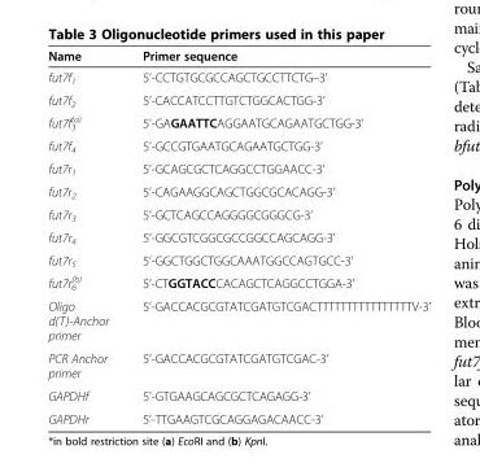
<table><thead><tr><td>Name</td><td>Primer sequence</td></tr></thead><tbody><tr><td>fut7f<sub>1</sub></td><td>5’-CCTGTGCGCCAGCTGCCTTCTG–3’</td></tr><tr><td>fut7f<sub>2</sub></td><td>5’-CACCATCCTTGTCTGGCACTGG-3’</td></tr><tr><td>fut7f<sub>3</sub> <sup>(a)</sup></td><td>5’-GAGAATTCAGGAATGCAGAATGCTGG-3’</td></tr><tr><td>fut7f<sub>4</sub></td><td>5’-GCCGTGAATGCAGAATGCTGG-3’</td></tr><tr><td>fut7r<sub>1</sub></td><td>5’-GCAGCGCTCAGGCCTGGAACC-3’</td></tr><tr><td>fut7r<sub>2</sub></td><td>5’-CAGAAGGCAGCTGGCGCACAGG-3’</td></tr><tr><td>fut7r<sub>3</sub></td><td>5’-GCTCAGCCAGGGGCGGGCG-3’</td></tr><tr><td>fut7r<sub>4</sub></td><td>5’-GGCGTCGGCGCCGGCCAGCAGG-3&#x27;</td></tr><tr><td>fut7r<sub>5</sub></td><td>5’-GGCTGGCTGGCAAATGGCCAGTGCC-3’</td></tr><tr><td>fut7r<sub>6</sub> <sup>(b)</sup></td><td>5’-CTGGTACCCACAGCTCAGGCCTGGA-3’</td></tr><tr><td>Oligo d(T)-Anchor primer</td><td>5’-GACCACGCGTATCGATGTCGACTTTTTTTTTTTTTTTTV-3’</td></tr><tr><td>PCR Anchor primer</td><td>5’-GACCACGCGTATCGATGTCGAC-3’</td></tr><tr><td>GAPDHf</td><td>5’-GTGAAGCAGCGCTCAGAGG-3’</td></tr><tr><td>GAPDHr</td><td>5’-TTGAAGTCGCAGGAGACAACC-3’</td></tr></tbody></table>